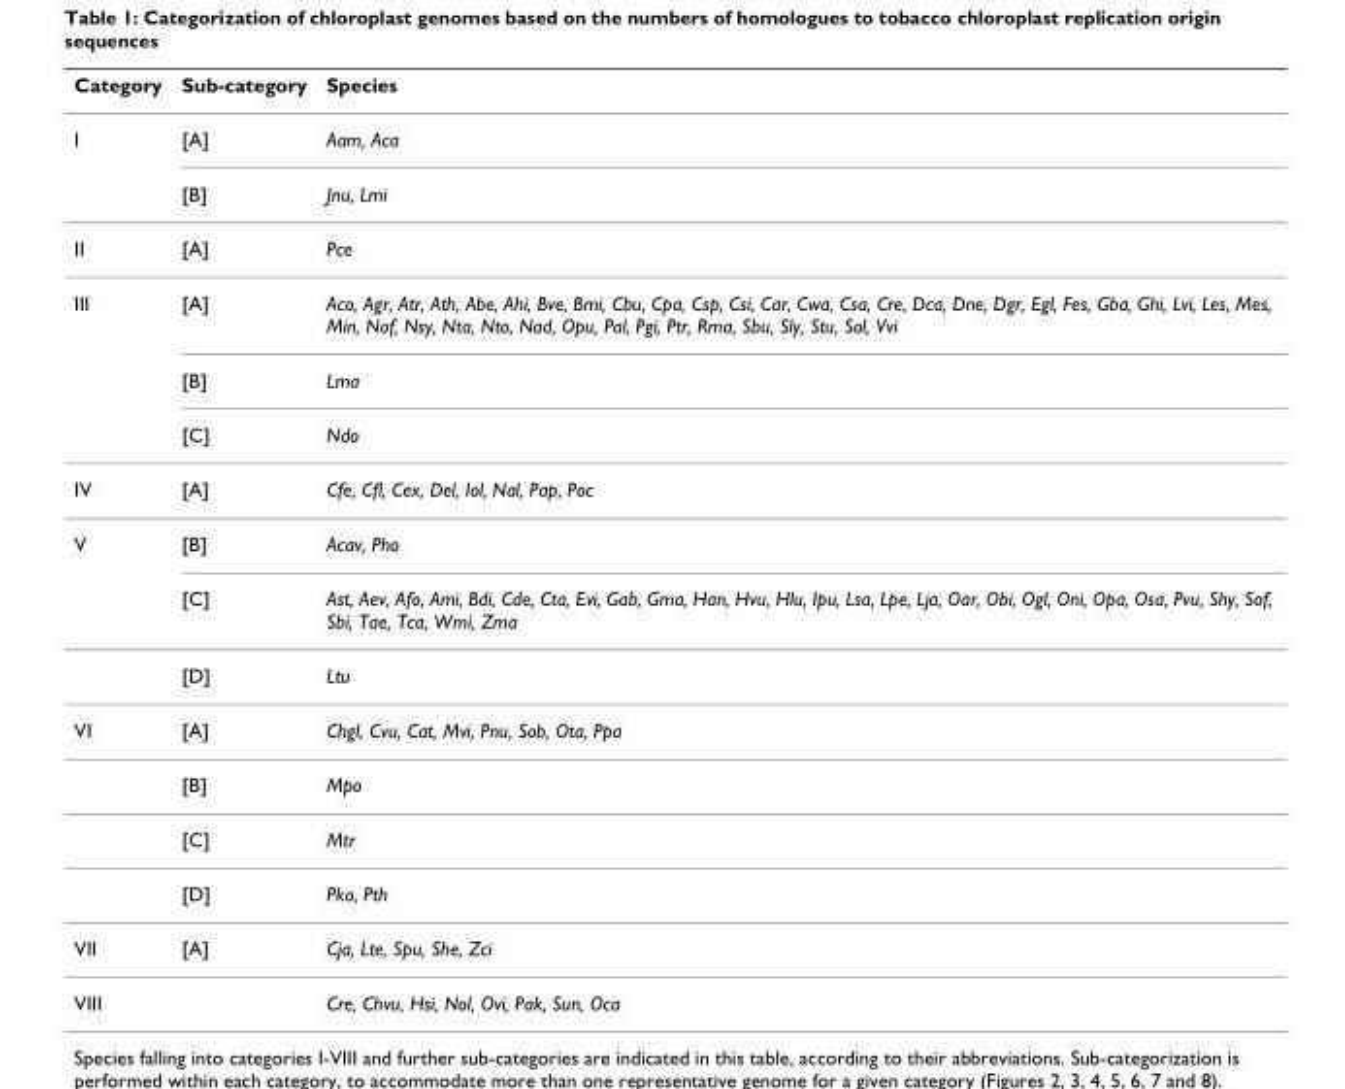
<table><thead><tr><td>Category</td><td>Sub-category</td><td>Species</td></tr></thead><tbody><tr><td rowspan="2">I</td><td>[A]</td><td>Aam, Aca</td></tr><tr><td>[B]</td><td>Jnu, Lmi</td></tr><tr><td>II</td><td>[A]</td><td>Pce</td></tr><tr><td rowspan="3">III</td><td>[A]</td><td>Aco, Agr, Atr, Ath, Abe, Ahi, Bve, Bmi, Cbu, Cpa, Csp, Csi, Car, Cwa, Csa, Cre, Dca, Dne, Dgr, Egl, Fes, Gba, Ghi, Lvi, Les, Mes, Min, Nof, Nsy, Nta, Nto, Nad, Opu, Pal, Pgi, Ptr, Rma, Sbu, Sly, Stu, Sol, Vvi</td></tr><tr><td>[B]</td><td>Lma</td></tr><tr><td>[C]</td><td>Ndo</td></tr><tr><td>IV</td><td>[A]</td><td>Cfe, Cfl, Cex, Del, Iol, Nal, Pap, Poc</td></tr><tr><td rowspan="3">V</td><td>[B]</td><td>Acav, Pho</td></tr><tr><td>[C]</td><td>Ast, Aev, Afo, Ami, Bdi, Cde, Cta, Evi, Gab, Gma, Han, Hvu, Hlu, Ipu, Lsa, Lpe, Lja, Oar, Obi, Ogl, Oni, Opa, Osa, Pvu, Shy, Sof, Sbi, Tae, Tca, Wmi, Zma</td></tr><tr><td>[D]</td><td>Ltu</td></tr><tr><td rowspan="4">VI</td><td>[A]</td><td>Chgl, Cvu, Cat, Mvi, Pnu, Sob, Ota, Ppa</td></tr><tr><td>[B]</td><td>Mpo</td></tr><tr><td>[C]</td><td>Mtr</td></tr><tr><td>[D]</td><td>Pko, Pth</td></tr><tr><td>VII</td><td>[A]</td><td>Cja, Lte, Spu, She, Zci</td></tr><tr><td>VIII</td><td></td><td>Cre, Chvu, Hsi, Nol, Ovi, Pak, Sun, Oca</td></tr></tbody></table>